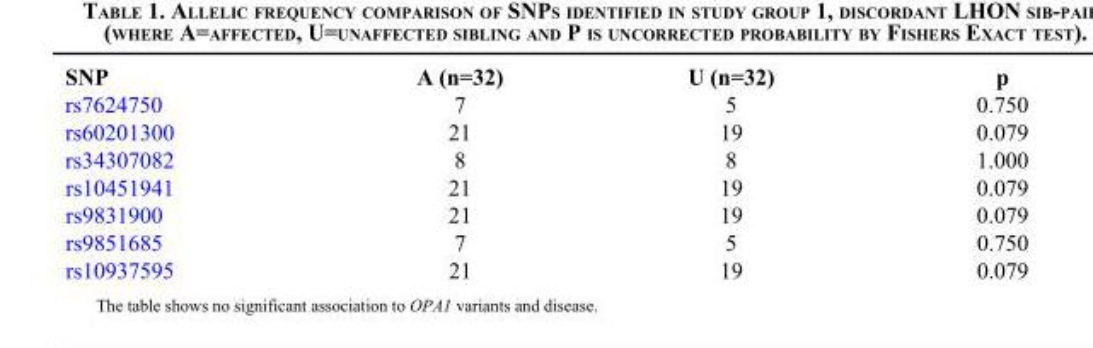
<table><thead><tr><td>SNP</td><td>A (n=32)</td><td>U (n=32)</td><td>p</td></tr></thead><tbody><tr><td>rs7624750</td><td>7</td><td>5</td><td>0.750</td></tr><tr><td>rs60201300</td><td>21</td><td>19</td><td>0.079</td></tr><tr><td>rs34307082</td><td>8</td><td>8</td><td>1.000</td></tr><tr><td>rs10451941</td><td>21</td><td>19</td><td>0.079</td></tr><tr><td>rs9831900</td><td>21</td><td>19</td><td>0.079</td></tr><tr><td>rs9851685</td><td>7</td><td>5</td><td>0.750</td></tr><tr><td>rs10937595</td><td>21</td><td>19</td><td>0.079</td></tr></tbody></table>